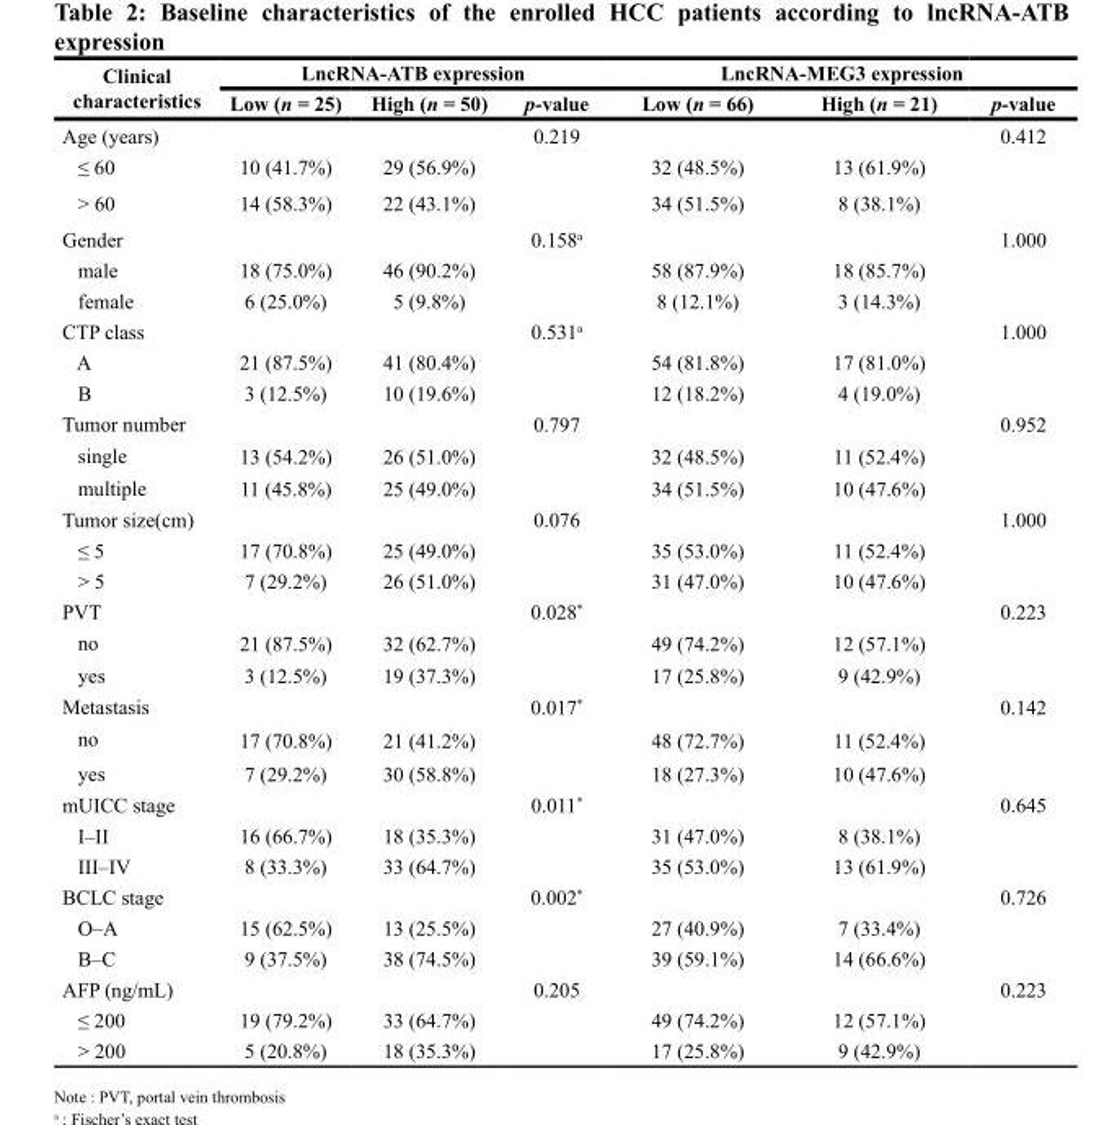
<table><thead><tr><td rowspan="2">Clinical characteristics</td><td colspan="3">LncRNA-ATB expression</td><td colspan="3">LncRNA-MEG3 expression</td></tr><tr><td>Low (n = 25)</td><td>High (n = 50)</td><td>p-value</td><td>Low (n = 66)</td><td>High (n = 21)</td><td>p-value</td></tr></thead><tbody><tr><td>Age (years)</td><td></td><td></td><td>0.219</td><td></td><td></td><td>0.412</td></tr><tr><td>≤ 60</td><td>10 (41.7%)</td><td>29 (56.9%)</td><td></td><td>32 (48.5%)</td><td>13 (61.9%)</td><td></td></tr><tr><td>&gt; 60</td><td>14 (58.3%)</td><td>22 (43.1%)</td><td></td><td>34 (51.5%)</td><td>8 (38.1%)</td><td></td></tr><tr><td>Gender</td><td></td><td></td><td>0.158<sup>a</sup></td><td></td><td></td><td>1.000</td></tr><tr><td>male</td><td>18 (75.0%)</td><td>46 (90.2%)</td><td></td><td>58 (87.9%)</td><td>18 (85.7%)</td><td></td></tr><tr><td>female</td><td>6 (25.0%)</td><td>5 (9.8%)</td><td></td><td>8 (12.1%)</td><td>3 (14.3%)</td><td></td></tr><tr><td>CTP class</td><td></td><td></td><td>0.531<sup>a</sup></td><td></td><td></td><td>1.000</td></tr><tr><td>A</td><td>21 (87.5%)</td><td>41 (80.4%)</td><td></td><td>54 (81.8%)</td><td>17 (81.0%)</td><td></td></tr><tr><td>B</td><td>3 (12.5%)</td><td>10 (19.6%)</td><td></td><td>12 (18.2%)</td><td>4 (19.0%)</td><td></td></tr><tr><td>Tumor number</td><td></td><td></td><td>0.797</td><td></td><td></td><td>0.952</td></tr><tr><td>single</td><td>13 (54.2%)</td><td>26 (51.0%)</td><td></td><td>32 (48.5%)</td><td>11 (52.4%)</td><td></td></tr><tr><td>multiple</td><td>11 (45.8%)</td><td>25 (49.0%)</td><td></td><td>34 (51.5%)</td><td>10 (47.6%)</td><td></td></tr><tr><td>Tumor size(cm)</td><td></td><td></td><td>0.076</td><td></td><td></td><td>1.000</td></tr><tr><td>≤ 5</td><td>17 (70.8%)</td><td>25 (49.0%)</td><td></td><td>35 (53.0%)</td><td>11 (52.4%)</td><td></td></tr><tr><td>&gt; 5</td><td>7 (29.2%)</td><td>26 (51.0%)</td><td></td><td>31 (47.0%)</td><td>10 (47.6%)</td><td></td></tr><tr><td>PVT</td><td></td><td></td><td>0.028*</td><td></td><td></td><td>0.223</td></tr><tr><td>no</td><td>21 (87.5%)</td><td>32 (62.7%)</td><td></td><td>49 (74.2%)</td><td>12 (57.1%)</td><td></td></tr><tr><td>yes</td><td>3 (12.5%)</td><td>19 (37.3%)</td><td></td><td>17 (25.8%)</td><td>9 (42.9%)</td><td></td></tr><tr><td>Metastasis</td><td></td><td></td><td>0.017*</td><td></td><td></td><td>0.142</td></tr><tr><td>no</td><td>17 (70.8%)</td><td>21 (41.2%)</td><td></td><td>48 (72.7%)</td><td>11 (52.4%)</td><td></td></tr><tr><td>yes</td><td>7 (29.2%)</td><td>30 (58.8%)</td><td></td><td>18 (27.3%)</td><td>10 (47.6%)</td><td></td></tr><tr><td>mUICC stage</td><td></td><td></td><td>0.011*</td><td></td><td></td><td>0.645</td></tr><tr><td>I–II</td><td>16 (66.7%)</td><td>18 (35.3%)</td><td></td><td>31 (47.0%)</td><td>8 (38.1%)</td><td></td></tr><tr><td>III–IV</td><td>8 (33.3%)</td><td>33 (64.7%)</td><td></td><td>35 (53.0%)</td><td>13 (61.9%)</td><td></td></tr><tr><td>BCLC stage</td><td></td><td></td><td>0.002*</td><td></td><td></td><td>0.726</td></tr><tr><td>O–A</td><td>15 (62.5%)</td><td>13 (25.5%)</td><td></td><td>27 (40.9%)</td><td>7 (33.4%)</td><td></td></tr><tr><td>B–C</td><td>9 (37.5%)</td><td>38 (74.5%)</td><td></td><td>39 (59.1%)</td><td>14 (66.6%)</td><td></td></tr><tr><td>AFP (ng/mL)</td><td></td><td></td><td>0.205</td><td></td><td></td><td>0.223</td></tr><tr><td>≤ 200</td><td>19 (79.2%)</td><td>33 (64.7%)</td><td></td><td>49 (74.2%)</td><td>12 (57.1%)</td><td></td></tr><tr><td>&gt; 200</td><td>5 (20.8%)</td><td>18 (35.3%)</td><td></td><td>17 (25.8%)</td><td>9 (42.9%)</td><td></td></tr></tbody></table>